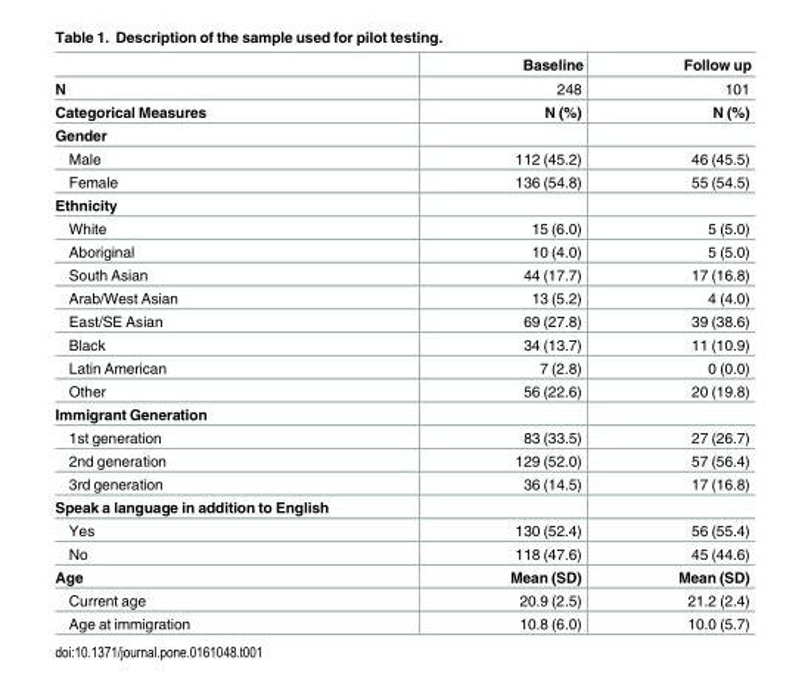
<table><thead><tr><td></td><td>Baseline</td><td>Follow up</td></tr></thead><tbody><tr><td>N</td><td>248</td><td>101</td></tr><tr><td>Categorical Measures</td><td>N (%)</td><td>N (%)</td></tr><tr><td colspan="3">Gender</td></tr><tr><td>Male</td><td>112 (45.2)</td><td>46 (45.5)</td></tr><tr><td>Female</td><td>136 (54.8)</td><td>55 (54.5)</td></tr><tr><td colspan="3">Ethnicity</td></tr><tr><td>White</td><td>15 (6.0)</td><td>5 (5.0)</td></tr><tr><td>Aboriginal</td><td>10 (4.0)</td><td>5 (5.0)</td></tr><tr><td>South Asian</td><td>44 (17.7)</td><td>17 (16.8)</td></tr><tr><td>Arab/West Asian</td><td>13 (5.2)</td><td>4 (4.0)</td></tr><tr><td>East/SE Asian</td><td>69 (27.8)</td><td>39 (38.6)</td></tr><tr><td>Black</td><td>34 (13.7)</td><td>11 (10.9)</td></tr><tr><td>Latin American</td><td>7 (2.8)</td><td>0 (0.0)</td></tr><tr><td>Other</td><td>56 (22.6)</td><td>20 (19.8)</td></tr><tr><td colspan="3">Immigrant Generation</td></tr><tr><td>1st generation</td><td>83 (33.5)</td><td>27 (26.7)</td></tr><tr><td>2nd generation</td><td>129 (52.0)</td><td>57 (56.4)</td></tr><tr><td>3rd generation</td><td>36 (14.5)</td><td>17 (16.8)</td></tr><tr><td colspan="3">Speak a language in addition to English</td></tr><tr><td>Yes</td><td>130 (52.4)</td><td>56 (55.4)</td></tr><tr><td>No</td><td>118 (47.6)</td><td>45 (44.6)</td></tr><tr><td>Age</td><td>Mean (SD)</td><td>Mean (SD)</td></tr><tr><td>Current age</td><td>20.9 (2.5)</td><td>21.2 (2.4)</td></tr><tr><td>Age at immigration</td><td>10.8 (6.0)</td><td>10.0 (5.7)</td></tr></tbody></table>